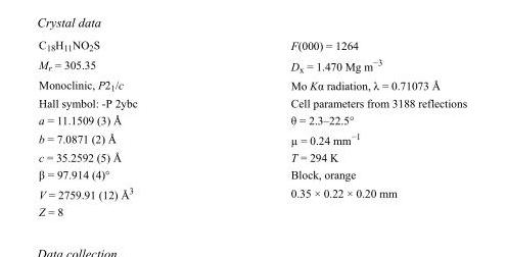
<table><tbody><tr><td>C<sub>18</sub>H<sub>11</sub>NO<sub>2</sub>S</td><td>F(000) = 1264</td></tr><tr><td>M<sub>r</sub> = 305.35</td><td>D<sub>x</sub> = 1.470 Mg m<sup>−3</sup></td></tr><tr><td>Monoclinic, P2<sub>1</sub>/c</td><td>Mo Kα radiation, λ = 0.71073 Å</td></tr><tr><td>Hall symbol: -P 2ybc</td><td>Cell parameters from 3188 reflections</td></tr><tr><td>a = 11.1509 (3) Å</td><td>θ = 2.3–22.5°</td></tr><tr><td>b = 7.0871 (2) Å</td><td>µ = 0.24 mm<sup>−1</sup></td></tr><tr><td>c = 35.2592 (5) Å</td><td>T = 294 K</td></tr><tr><td>β = 97.914 (4)°</td><td>Block, orange</td></tr><tr><td>V = 2759.91 (12) Å<sup>3</sup></td><td>0.35 × 0.22 × 0.20 mm</td></tr><tr><td>Z = 8</td><td></td></tr></tbody></table>